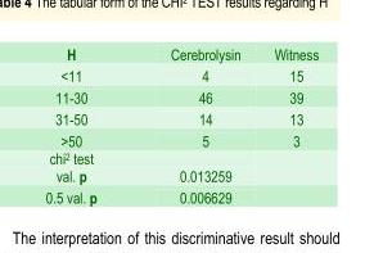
<table><thead><tr><td>H</td><td>Cerebrolysin</td><td>Witness</td></tr></thead><tbody><tr><td>&lt;11</td><td>4</td><td>15</td></tr><tr><td>11-30</td><td>46</td><td>39</td></tr><tr><td>31-50</td><td>14</td><td>13</td></tr><tr><td>&gt;50</td><td>5</td><td>3</td></tr><tr><td>chi2 test val. p</td><td>0.013259</td><td></td></tr><tr><td>0.5 val. p</td><td>0.006629</td><td></td></tr></tbody></table>